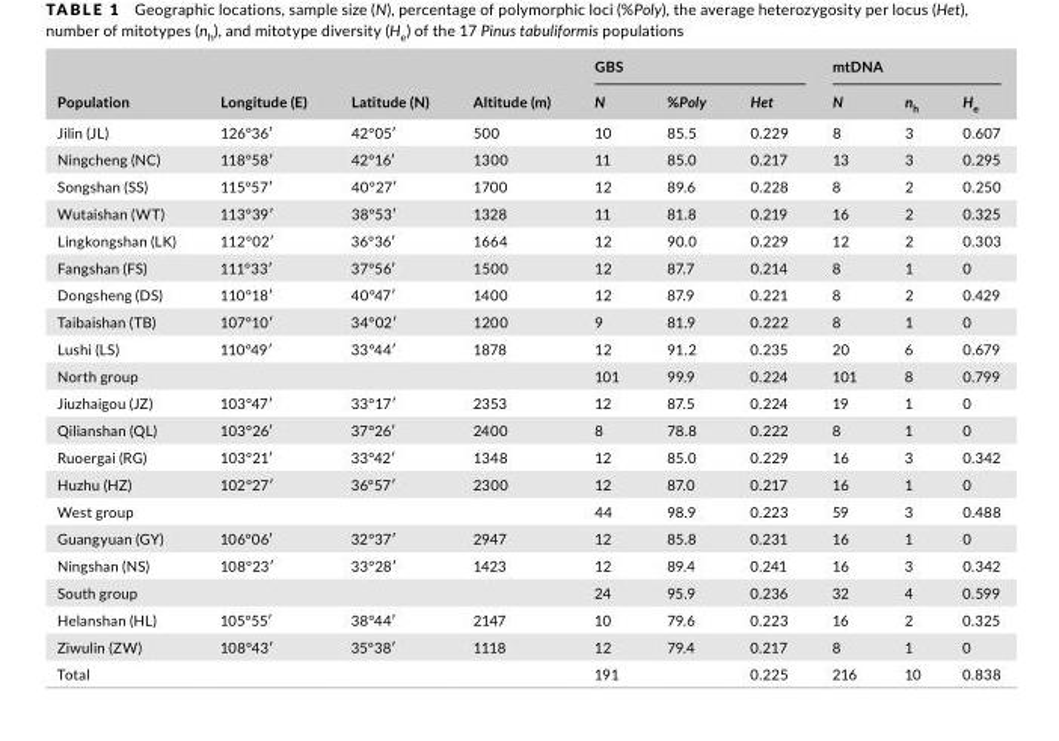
<table><thead><tr><td rowspan="2">Population</td><td rowspan="2">Longitude (E)</td><td rowspan="2">Latitude (N)</td><td rowspan="2">Altitude (m)</td><td colspan="3">GBS</td><td colspan="3">mtDNA</td></tr><tr><td>N</td><td>%Poly</td><td>Het</td><td>N</td><td>n<sub>h</sub></td><td>H<sub>e</sub></td></tr></thead><tbody><tr><td>Jilin (JL)</td><td>126°36′</td><td>42°05′</td><td>500</td><td>10</td><td>85.5</td><td>0.229</td><td>8</td><td>3</td><td>0.607</td></tr><tr><td>Ningcheng (NC)</td><td>118°58′</td><td>42°16′</td><td>1300</td><td>11</td><td>85.0</td><td>0.217</td><td>13</td><td>3</td><td>0.295</td></tr><tr><td>Songshan (SS)</td><td>115°57′</td><td>40°27′</td><td>1700</td><td>12</td><td>89.6</td><td>0.228</td><td>8</td><td>2</td><td>0.250</td></tr><tr><td>Wutaishan (WT)</td><td>113°39′</td><td>38°53′</td><td>1328</td><td>11</td><td>81.8</td><td>0.219</td><td>16</td><td>2</td><td>0.325</td></tr><tr><td>Lingkongshan (LK)</td><td>112°02′</td><td>36°36′</td><td>1664</td><td>12</td><td>90.0</td><td>0.229</td><td>12</td><td>2</td><td>0.303</td></tr><tr><td>Fangshan (FS)</td><td>111°33′</td><td>37°56′</td><td>1500</td><td>12</td><td>87.7</td><td>0.214</td><td>8</td><td>1</td><td>0</td></tr><tr><td>Dongsheng (DS)</td><td>110°18′</td><td>40°47′</td><td>1400</td><td>12</td><td>87.9</td><td>0.221</td><td>8</td><td>2</td><td>0.429</td></tr><tr><td>Taibaishan (TB)</td><td>107°10′</td><td>34°02′</td><td>1200</td><td>9</td><td>81.9</td><td>0.222</td><td>8</td><td>1</td><td>0</td></tr><tr><td>Lushi (LS)</td><td>110°49′</td><td>33°44′</td><td>1878</td><td>12</td><td>91.2</td><td>0.235</td><td>20</td><td>6</td><td>0.679</td></tr><tr><td>North group</td><td></td><td></td><td></td><td>101</td><td>99.9</td><td>0.224</td><td>101</td><td>8</td><td>0.799</td></tr><tr><td>Jiuzhaigou (JZ)</td><td>103°47′</td><td>33°17′</td><td>2353</td><td>12</td><td>87.5</td><td>0.224</td><td>19</td><td>1</td><td>0</td></tr><tr><td>Qilianshan (QL)</td><td>103°26′</td><td>37°26′</td><td>2400</td><td>8</td><td>78.8</td><td>0.222</td><td>8</td><td>1</td><td>0</td></tr><tr><td>Ruoergai (RG)</td><td>103°21′</td><td>33°42′</td><td>1348</td><td>12</td><td>85.0</td><td>0.229</td><td>16</td><td>3</td><td>0.342</td></tr><tr><td>Huzhu (HZ)</td><td>102°27′</td><td>36°57′</td><td>2300</td><td>12</td><td>87.0</td><td>0.217</td><td>16</td><td>1</td><td>0</td></tr><tr><td>West group</td><td></td><td></td><td></td><td>44</td><td>98.9</td><td>0.223</td><td>59</td><td>3</td><td>0.488</td></tr><tr><td>Guangyuan (GY)</td><td>106°06′</td><td>32°37′</td><td>2947</td><td>12</td><td>85.8</td><td>0.231</td><td>16</td><td>1</td><td>0</td></tr><tr><td>Ningshan (NS)</td><td>108°23′</td><td>33°28′</td><td>1423</td><td>12</td><td>89.4</td><td>0.241</td><td>16</td><td>3</td><td>0.342</td></tr><tr><td>South group</td><td></td><td></td><td></td><td>24</td><td>95.9</td><td>0.236</td><td>32</td><td>4</td><td>0.599</td></tr><tr><td>Helanshan (HL)</td><td>105°55′</td><td>38°44′</td><td>2147</td><td>10</td><td>79.6</td><td>0.223</td><td>16</td><td>2</td><td>0.325</td></tr><tr><td>Ziwulin (ZW)</td><td>108°43′</td><td>35°38′</td><td>1118</td><td>12</td><td>79.4</td><td>0.217</td><td>8</td><td>1</td><td>0</td></tr><tr><td>Total</td><td></td><td></td><td></td><td>191</td><td></td><td>0.225</td><td>216</td><td>10</td><td>0.838</td></tr></tbody></table>